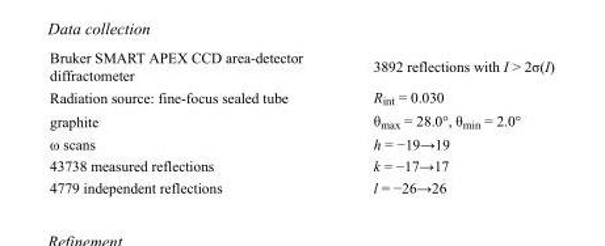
<table><tbody><tr><td>Bruker SMART APEX CCD area-detector diffractometer</td><td>3892 reflections with I &gt; 2σ(I)</td></tr><tr><td>Radiation source: fine-focus sealed tube</td><td>R<sub>int</sub> = 0.030</td></tr><tr><td>graphite</td><td>θ<sub>max</sub> = 28.0°, θ<sub>min</sub> = 2.0°</td></tr><tr><td>ω scans</td><td>h = −19→19</td></tr><tr><td>43738 measured reflections</td><td>k = −17→17</td></tr><tr><td>4779 independent reflections</td><td>l = −26→26</td></tr></tbody></table>